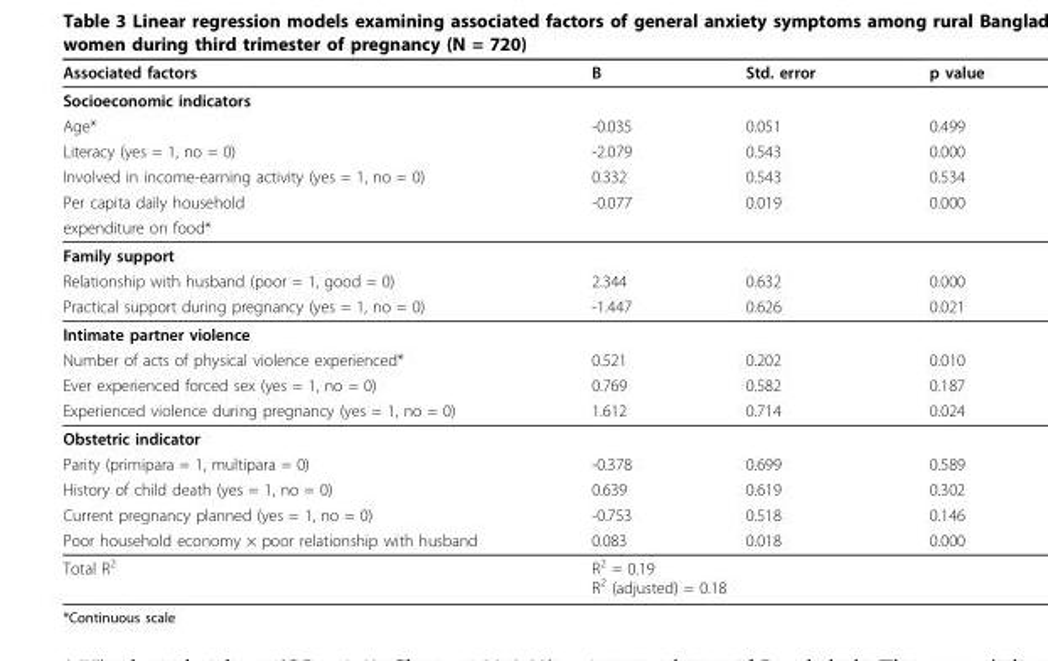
<table><thead><tr><td>Associated factors</td><td>B</td><td>Std. error</td><td>p value</td></tr></thead><tbody><tr><td colspan="4">Socioeconomic indicators</td></tr><tr><td>Age*</td><td>-0.035</td><td>0.051</td><td>0.499</td></tr><tr><td>Literacy (yes = 1, no = 0)</td><td>-2.079</td><td>0.543</td><td>0.000</td></tr><tr><td>Involved in income-earning activity (yes = 1, no = 0)</td><td>0.332</td><td>0.543</td><td>0.534</td></tr><tr><td>Per capita daily household</td><td>-0.077</td><td>0.019</td><td>0.000</td></tr><tr><td colspan="4">expenditure on food*</td></tr><tr><td colspan="4">Family support</td></tr><tr><td>Relationship with husband (poor = 1, good = 0)</td><td>2.344</td><td>0.632</td><td>0.000</td></tr><tr><td>Practical support during pregnancy (yes = 1, no = 0)</td><td>-1.447</td><td>0.626</td><td>0.021</td></tr><tr><td colspan="4">Intimate partner violence</td></tr><tr><td>Number of acts of physical violence experienced*</td><td>0.521</td><td>0.202</td><td>0.010</td></tr><tr><td>Ever experienced forced sex (yes = 1, no = 0)</td><td>0.769</td><td>0.582</td><td>0.187</td></tr><tr><td>Experienced violence during pregnancy (yes = 1, no = 0)</td><td>1.612</td><td>0.714</td><td>0.024</td></tr><tr><td colspan="4">Obstetric indicator</td></tr><tr><td>Parity (primipara = 1, multipara = 0)</td><td>-0.378</td><td>0.699</td><td>0.589</td></tr><tr><td>History of child death (yes = 1, no = 0)</td><td>0.639</td><td>0.619</td><td>0.302</td></tr><tr><td>Current pregnancy planned (yes = 1, no = 0)</td><td>-0.753</td><td>0.518</td><td>0.146</td></tr><tr><td>Poor household economy × poor relationship with husband</td><td>0.083</td><td>0.018</td><td>0.000</td></tr><tr><td>Total R<sup>2</sup></td><td colspan="3">R<sup>2</sup> = 0.19 R<sup>2</sup> (adjusted) = 0.18</td></tr></tbody></table>